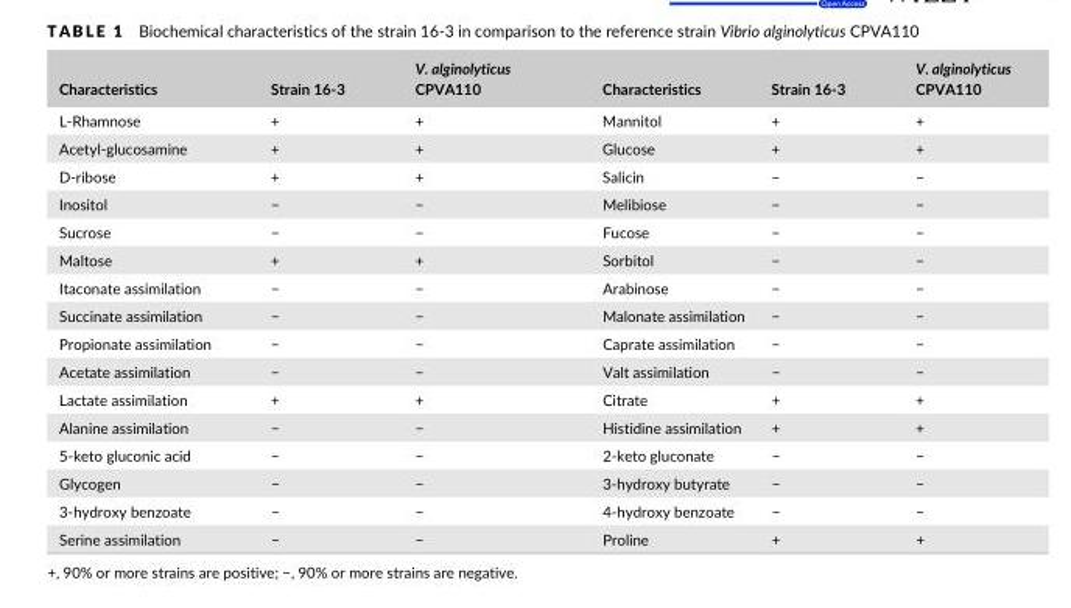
<table><thead><tr><td>Characteristics</td><td>Strain 16- 3</td><td>V. alginolyticus CPVA110</td><td>Characteristics</td><td>Strain 16- 3</td><td>V. alginolyticus CPVA110</td></tr></thead><tbody><tr><td>L- Rhamnose</td><td>+</td><td>+</td><td>Mannitol</td><td>+</td><td>+</td></tr><tr><td>Acetyl- glucosamine</td><td>+</td><td>+</td><td>Glucose</td><td>+</td><td>+</td></tr><tr><td>D- ribose</td><td>+</td><td>+</td><td>Salicin</td><td>−</td><td>−</td></tr><tr><td>Inositol</td><td>−</td><td>−</td><td>Melibiose</td><td>−</td><td>−</td></tr><tr><td>Sucrose</td><td>−</td><td>−</td><td>Fucose</td><td>−</td><td>−</td></tr><tr><td>Maltose</td><td>+</td><td>+</td><td>Sorbitol</td><td>−</td><td>−</td></tr><tr><td>Itaconate assimilation</td><td>−</td><td>−</td><td>Arabinose</td><td>−</td><td>−</td></tr><tr><td>Succinate assimilation</td><td>−</td><td>−</td><td>Malonate assimilation</td><td>−</td><td>−</td></tr><tr><td>Propionate assimilation</td><td>−</td><td>−</td><td>Caprate assimilation</td><td>−</td><td>−</td></tr><tr><td>Acetate assimilation</td><td>−</td><td>−</td><td>Valt assimilation</td><td>−</td><td>−</td></tr><tr><td>Lactate assimilation</td><td>+</td><td>+</td><td>Citrate</td><td>+</td><td>+</td></tr><tr><td>Alanine assimilation</td><td>−</td><td>−</td><td>Histidine assimilation</td><td>+</td><td>+</td></tr><tr><td>5- keto gluconic acid</td><td>−</td><td>−</td><td>2- keto gluconate</td><td>−</td><td>−</td></tr><tr><td>Glycogen</td><td>−</td><td>−</td><td>3- hydroxy butyrate</td><td>−</td><td>−</td></tr><tr><td>3- hydroxy benzoate</td><td>−</td><td>−</td><td>4- hydroxy benzoate</td><td>−</td><td>−</td></tr><tr><td>Serine assimilation</td><td>−</td><td>−</td><td>Proline</td><td>+</td><td>+</td></tr></tbody></table>